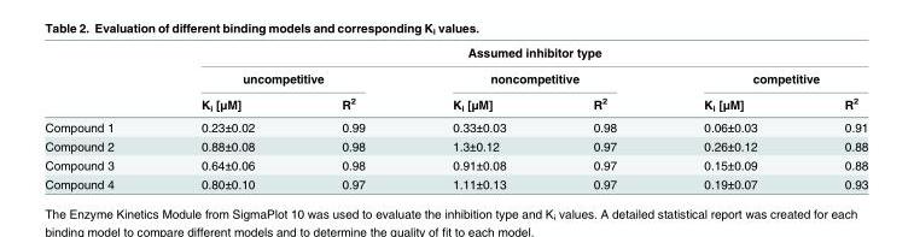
<table><thead><tr><td rowspan="3"></td><td colspan="6">Assumed inhibitor type</td></tr><tr><td colspan="2">uncompetitive</td><td colspan="2">noncompetitive</td><td colspan="2">competitive</td></tr><tr><td>K<sub>i</sub> [μM]</td><td>R<sup>2</sup></td><td>K<sub>i</sub> [μM]</td><td>R<sup>2</sup></td><td>K<sub>i</sub> [μM]</td><td>R<sup>2</sup></td></tr></thead><tbody><tr><td>Compound 1</td><td>0.23±0.02</td><td>0.99</td><td>0.33±0.03</td><td>0.98</td><td>0.06±0.03</td><td>0.91</td></tr><tr><td>Compound 2</td><td>0.88±0.08</td><td>0.98</td><td>1.3±0.12</td><td>0.97</td><td>0.26±0.12</td><td>0.88</td></tr><tr><td>Compound 3</td><td>0.64±0.06</td><td>0.98</td><td>0.91±0.08</td><td>0.97</td><td>0.15±0.09</td><td>0.88</td></tr><tr><td>Compound 4</td><td>0.80±0.10</td><td>0.97</td><td>1.11±0.13</td><td>0.97</td><td>0.19±0.07</td><td>0.93</td></tr></tbody></table>